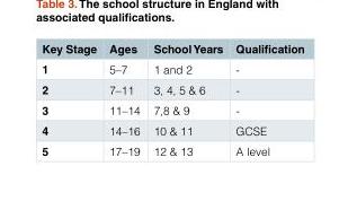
<table><thead><tr><td>Key Stage</td><td>Ages</td><td>School Years</td><td>Qualification</td></tr></thead><tbody><tr><td>1</td><td>5–7</td><td>1 and 2</td><td>-</td></tr><tr><td>2</td><td>7–11</td><td>3, 4, 5 &amp; 6</td><td>-</td></tr><tr><td>3</td><td>11–14</td><td>7,8 &amp; 9</td><td>-</td></tr><tr><td>4</td><td>14–16</td><td>10 &amp; 11</td><td>GCSE</td></tr><tr><td>5</td><td>17–19</td><td>12 &amp; 13</td><td>A level</td></tr></tbody></table>